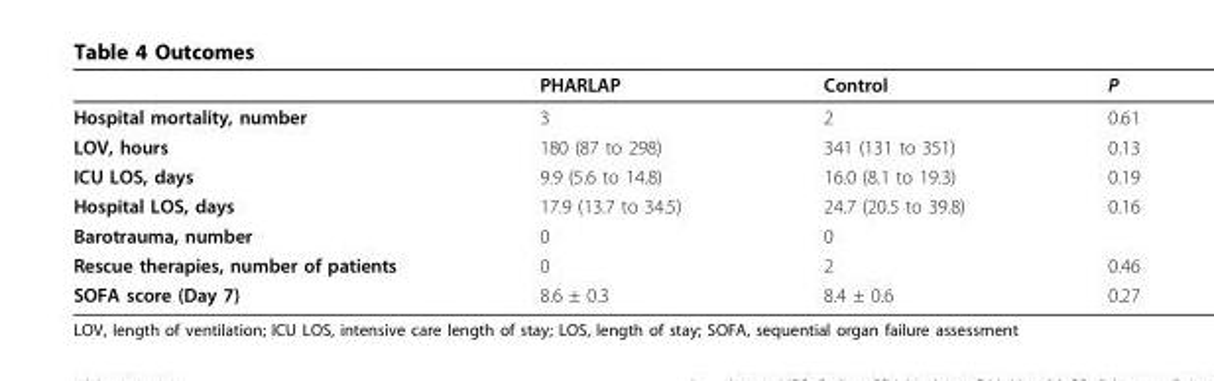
<table><thead><tr><td></td><td>PHARLAP</td><td>Control</td><td>P</td></tr></thead><tbody><tr><td>Hospital mortality, number</td><td>3</td><td>2</td><td>0.61</td></tr><tr><td>LOV, hours</td><td>180 (87 to 298)</td><td>341 (131 to 351)</td><td>0.13</td></tr><tr><td>ICU LOS, days</td><td>9.9 (5.6 to 14.8)</td><td>16.0 (8.1 to 19.3)</td><td>0.19</td></tr><tr><td>Hospital LOS, days</td><td>17.9 (13.7 to 34.5)</td><td>24.7 (20.5 to 39.8)</td><td>0.16</td></tr><tr><td>Barotrauma, number</td><td>0</td><td>0</td><td></td></tr><tr><td>Rescue therapies, number of patients</td><td>0</td><td>2</td><td>0.46</td></tr><tr><td>SOFA score (Day 7)</td><td>8.6 ± 0.3</td><td>8.4 ± 0.6</td><td>0.27</td></tr></tbody></table>